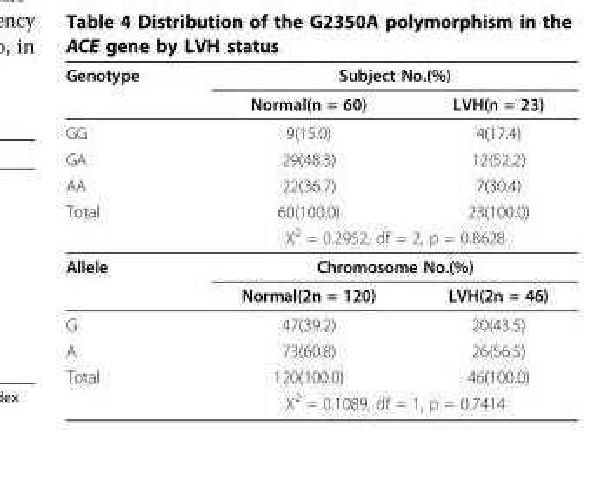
<table><thead><tr><td rowspan="2">Genotype</td><td colspan="2">Subject No.(%)</td></tr><tr><td>Normal(n = 60)</td><td>LVH(n = 23)</td></tr></thead><tbody><tr><td>GG</td><td>9(15.0)</td><td>4(17.4)</td></tr><tr><td>GA</td><td>29(48.3)</td><td>12(52.2)</td></tr><tr><td>AA</td><td>22(36.7)</td><td>7(30.4)</td></tr><tr><td rowspan="2">Total</td><td>60(100.0)</td><td>23(100.0)</td></tr><tr><td colspan="2">Χ<sup>2</sup> = 0.2952, df = 2, p = 0.8628</td></tr><tr><td rowspan="2">Allele</td><td colspan="2">Chromosome No.(%)</td></tr><tr><td>Normal(2n = 120)</td><td>LVH(2n = 46)</td></tr><tr><td>G</td><td>47(39.2)</td><td>20(43.5)</td></tr><tr><td>A</td><td>73(60.8)</td><td>26(56.5)</td></tr><tr><td rowspan="2">Total</td><td>120(100.0)</td><td>46(100.0)</td></tr><tr><td colspan="2">Χ<sup>2</sup> = 0.1089, df = 1, p = 0.7414</td></tr></tbody></table>